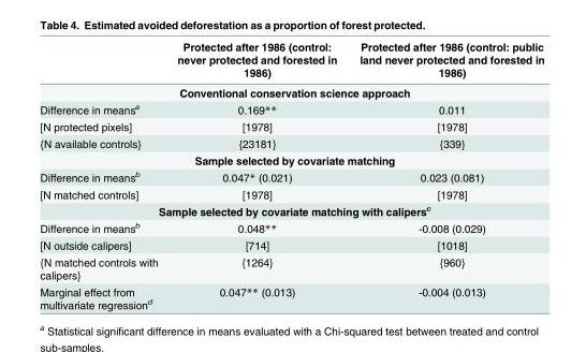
<table><thead><tr><td></td><td>Protected after 1986 (control: never protected and forested in 1986)</td><td>Protected after 1986 (control: public land never protected and forested in 1986)</td></tr></thead><tbody><tr><td colspan="3">Conventional conservation science approach</td></tr><tr><td>Difference in means<sup>a</sup></td><td>0.169**</td><td>0.011</td></tr><tr><td>[N protected pixels]</td><td>[1978]</td><td>[1978]</td></tr><tr><td>{N available controls}</td><td>{23181}</td><td>{339}</td></tr><tr><td colspan="3">Sample selected by covariate matching</td></tr><tr><td>Difference in means<sup>b</sup></td><td>0.047* (0.021)</td><td>0.023 (0.081)</td></tr><tr><td>[N matched controls]</td><td>[1978]</td><td>[1978]</td></tr><tr><td colspan="3">Sample selected by covariate matching with calipers<sup>c</sup></td></tr><tr><td>Difference in means<sup>b</sup></td><td>0.048**</td><td>-0.008 (0.029)</td></tr><tr><td>[N outside calipers]</td><td>[714]</td><td>[1018]</td></tr><tr><td>{N matched controls with calipers}</td><td>{1264}</td><td>{960}</td></tr><tr><td>Marginal effect from multivariate regression<sup>d</sup></td><td>0.047** (0.013)</td><td>-0.004 (0.013)</td></tr></tbody></table>